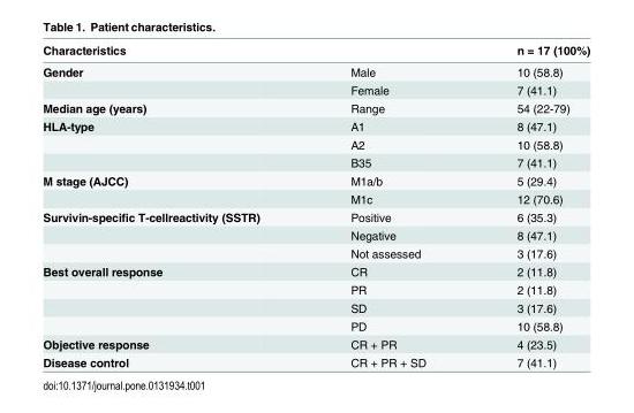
<table><thead><tr><td>Characteristics</td><td></td><td>n = 17 (100%)</td></tr></thead><tbody><tr><td rowspan="2">Gender</td><td>Male</td><td>10 (58.8)</td></tr><tr><td>Female</td><td>7 (41.1)</td></tr><tr><td>Median age (years)</td><td>Range</td><td>54 (22-79)</td></tr><tr><td rowspan="3">HLA-type</td><td>A1</td><td>8 (47.1)</td></tr><tr><td>A2</td><td>10 (58.8)</td></tr><tr><td>B35</td><td>7 (41.1)</td></tr><tr><td rowspan="2">M stage (AJCC)</td><td>M1a/b</td><td>5 (29.4)</td></tr><tr><td>M1c</td><td>12 (70.6)</td></tr><tr><td rowspan="3">Survivin-specific T-cellreactivity (SSTR)</td><td>Positive</td><td>6 (35.3)</td></tr><tr><td>Negative</td><td>8 (47.1)</td></tr><tr><td>Not assessed</td><td>3 (17.6)</td></tr><tr><td rowspan="4">Best overall response</td><td>CR</td><td>2 (11.8)</td></tr><tr><td>PR</td><td>2 (11.8)</td></tr><tr><td>SD</td><td>3 (17.6)</td></tr><tr><td>PD</td><td>10 (58.8)</td></tr><tr><td>Objective response</td><td>CR + PR</td><td>4 (23.5)</td></tr><tr><td>Disease control</td><td>CR + PR + SD</td><td>7 (41.1)</td></tr></tbody></table>